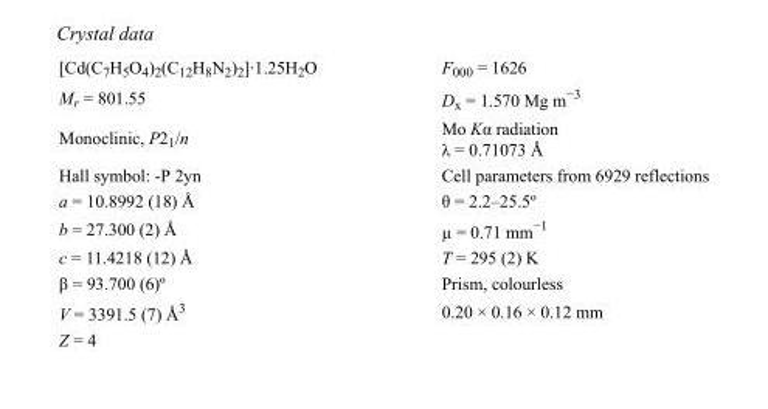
<table><tbody><tr><td>[Cd(C<sub>7</sub>H<sub>5</sub>O<sub>4</sub>)<sub>2</sub>(C<sub>12</sub>H<sub>8</sub>N<sub>2</sub>)<sub>2</sub>]·1.25H<sub>2</sub>O</td><td>F<sub>000</sub> = 1626</td></tr><tr><td>M<sub>r</sub> = 801.55</td><td>D<sub>x</sub> = 1.570 Mg m<sup>−3</sup></td></tr><tr><td>Monoclinic, P2<sub>1</sub>/n</td><td>Mo Kα radiation λ = 0.71073 Å</td></tr><tr><td>Hall symbol: -P 2yn</td><td>Cell parameters from 6929 reflections</td></tr><tr><td>a = 10.8992 (18) Å</td><td>θ = 2.2–25.5º</td></tr><tr><td>b = 27.300 (2) Å</td><td>µ = 0.71 mm<sup>−1</sup></td></tr><tr><td>c = 11.4218 (12) Å</td><td>T = 295 (2) K</td></tr><tr><td>β = 93.700 (6)º</td><td>Prism, colourless</td></tr><tr><td>V = 3391.5 (7) Å<sup>3</sup></td><td>0.20 × 0.16 × 0.12 mm</td></tr><tr><td>Z = 4</td><td></td></tr></tbody></table>